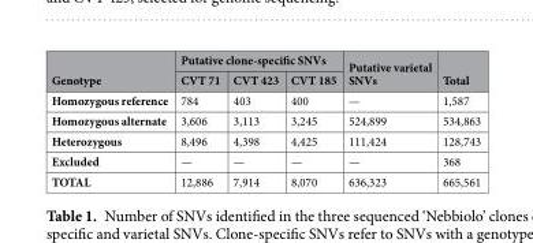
<table><thead><tr><td rowspan="2">Genotype</td><td colspan="3">Putative clone-specific SNVs</td><td rowspan="2">Putative varietal SNVs</td><td rowspan="2">Total</td></tr><tr><td>CVT 71</td><td>CVT 423</td><td>CVT 185</td></tr></thead><tbody><tr><td>Homozygous reference</td><td>784</td><td>403</td><td>400</td><td>—</td><td>1,587</td></tr><tr><td>Homozygous alternate</td><td>3,606</td><td>3,113</td><td>3,245</td><td>524,899</td><td>534,863</td></tr><tr><td>Heterozygous</td><td>8,496</td><td>4,398</td><td>4,425</td><td>111,424</td><td>128,743</td></tr><tr><td>Excluded</td><td>—</td><td>—</td><td>—</td><td>—</td><td>368</td></tr><tr><td>TOTAL</td><td>12,886</td><td>7,914</td><td>8,070</td><td>636,323</td><td>665,561</td></tr></tbody></table>